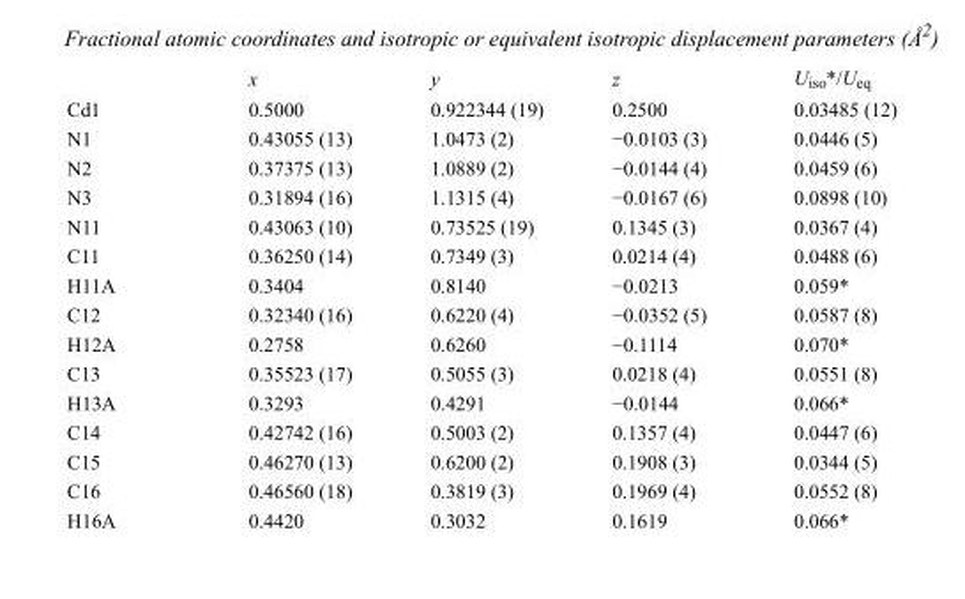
<table><thead><tr><td></td><td>x</td><td>y</td><td>z</td><td>U<sub>iso</sub>*/U<sub>eq</sub></td></tr></thead><tbody><tr><td>Cd1</td><td>0.5000</td><td>0.922344 (19)</td><td>0.2500</td><td>0.03485 (12)</td></tr><tr><td>N1</td><td>0.43055 (13)</td><td>1.0473 (2)</td><td>−0.0103 (3)</td><td>0.0446 (5)</td></tr><tr><td>N2</td><td>0.37375 (13)</td><td>1.0889 (2)</td><td>−0.0144 (4)</td><td>0.0459 (6)</td></tr><tr><td>N3</td><td>0.31894 (16)</td><td>1.1315 (4)</td><td>−0.0167 (6)</td><td>0.0898 (10)</td></tr><tr><td>N11</td><td>0.43063 (10)</td><td>0.73525 (19)</td><td>0.1345 (3)</td><td>0.0367 (4)</td></tr><tr><td>C11</td><td>0.36250 (14)</td><td>0.7349 (3)</td><td>0.0214 (4)</td><td>0.0488 (6)</td></tr><tr><td>H11A</td><td>0.3404</td><td>0.8140</td><td>−0.0213</td><td>0.059*</td></tr><tr><td>C12</td><td>0.32340 (16)</td><td>0.6220 (4)</td><td>−0.0352 (5)</td><td>0.0587 (8)</td></tr><tr><td>H12A</td><td>0.2758</td><td>0.6260</td><td>−0.1114</td><td>0.070*</td></tr><tr><td>C13</td><td>0.35523 (17)</td><td>0.5055 (3)</td><td>0.0218 (4)</td><td>0.0551 (8)</td></tr><tr><td>H13A</td><td>0.3293</td><td>0.4291</td><td>−0.0144</td><td>0.066*</td></tr><tr><td>C14</td><td>0.42742 (16)</td><td>0.5003 (2)</td><td>0.1357 (4)</td><td>0.0447 (6)</td></tr><tr><td>C15</td><td>0.46270 (13)</td><td>0.6200 (2)</td><td>0.1908 (3)</td><td>0.0344 (5)</td></tr><tr><td>C16</td><td>0.46560 (18)</td><td>0.3819 (3)</td><td>0.1969 (4)</td><td>0.0552 (8)</td></tr><tr><td>H16A</td><td>0.4420</td><td>0.3032</td><td>0.1619</td><td>0.066*</td></tr></tbody></table>